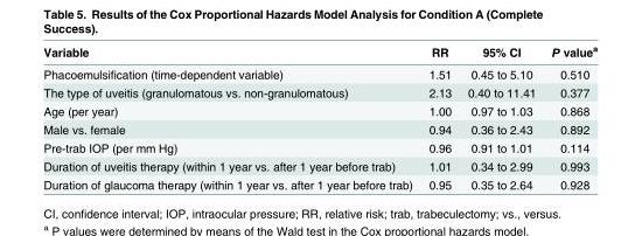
<table><thead><tr><td>Variable</td><td>RR</td><td>95% CI</td><td>P value<sup>a</sup></td></tr></thead><tbody><tr><td>Phacoemulsification (time-dependent variable)</td><td>1.51</td><td>0.45 to 5.10</td><td>0.510</td></tr><tr><td>The type of uveitis (granulomatous vs. non-granulomatous)</td><td>2.13</td><td>0.40 to 11.41</td><td>0.377</td></tr><tr><td>Age (per year)</td><td>1.00</td><td>0.97 to 1.03</td><td>0.868</td></tr><tr><td>Male vs. female</td><td>0.94</td><td>0.36 to 2.43</td><td>0.892</td></tr><tr><td>Pre-trab IOP (per mm Hg)</td><td>0.96</td><td>0.91 to 1.01</td><td>0.114</td></tr><tr><td>Duration of uveitis therapy (within 1 year vs. after 1 year before trab)</td><td>1.01</td><td>0.34 to 2.99</td><td>0.993</td></tr><tr><td>Duration of glaucoma therapy (within 1 year vs. after 1 year before trab)</td><td>0.95</td><td>0.35 to 2.64</td><td>0.928</td></tr></tbody></table>